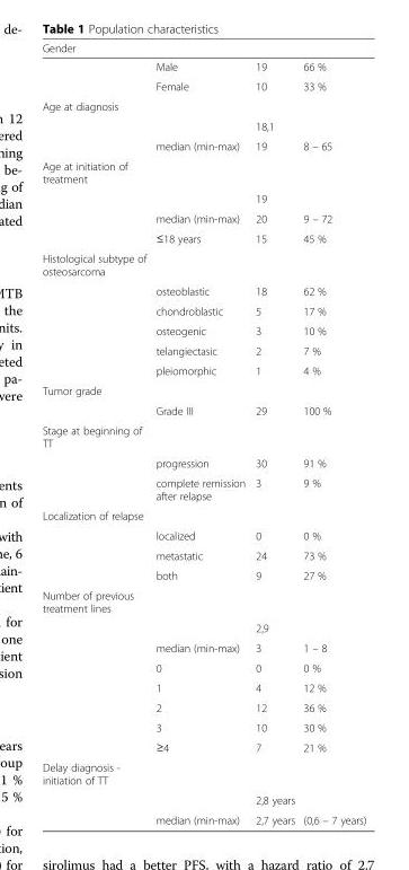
<table><thead><tr><td>Gender</td><td></td><td></td><td></td></tr></thead><tbody><tr><td></td><td>Male</td><td>19</td><td>66 %</td></tr><tr><td></td><td>Female</td><td>10</td><td>33 %</td></tr><tr><td colspan="4">Age at diagnosis</td></tr><tr><td></td><td></td><td>18,1</td><td></td></tr><tr><td></td><td>median (min-max)</td><td>19</td><td>8 – 65</td></tr><tr><td colspan="4">Age at initiation of treatment</td></tr><tr><td></td><td></td><td>19</td><td></td></tr><tr><td></td><td>median (min-max)</td><td>20</td><td>9 – 72</td></tr><tr><td></td><td>≤18 years</td><td>15</td><td>45 %</td></tr><tr><td colspan="4">Histological subtype of osteosarcoma</td></tr><tr><td></td><td>osteoblastic</td><td>18</td><td>62 %</td></tr><tr><td></td><td>chondroblastic</td><td>5</td><td>17 %</td></tr><tr><td></td><td>osteogenic</td><td>3</td><td>10 %</td></tr><tr><td></td><td>telangiectasic</td><td>2</td><td>7 %</td></tr><tr><td></td><td>pleiomorphic</td><td>1</td><td>4 %</td></tr><tr><td colspan="4">Tumor grade</td></tr><tr><td></td><td>Grade III</td><td>29</td><td>100 %</td></tr><tr><td colspan="4">Stage at beginning of TT</td></tr><tr><td></td><td>progression</td><td>30</td><td>91 %</td></tr><tr><td></td><td>complete remission after relapse</td><td>3</td><td>9 %</td></tr><tr><td colspan="4">Localization of relapse</td></tr><tr><td></td><td>localized</td><td>0</td><td>0 %</td></tr><tr><td></td><td>metastatic</td><td>24</td><td>73 %</td></tr><tr><td></td><td>both</td><td>9</td><td>27 %</td></tr><tr><td colspan="4">Number of previous treatment lines</td></tr><tr><td></td><td></td><td>2,9</td><td></td></tr><tr><td></td><td>median (min-max)</td><td>3</td><td>1 – 8</td></tr><tr><td></td><td>0</td><td>0</td><td>0 %</td></tr><tr><td></td><td>1</td><td>4</td><td>12 %</td></tr><tr><td></td><td>2</td><td>12</td><td>36 %</td></tr><tr><td></td><td>3</td><td>10</td><td>30 %</td></tr><tr><td></td><td>≥4</td><td>7</td><td>21 %</td></tr><tr><td colspan="4">Delay diagnosis - initiation of TT</td></tr><tr><td></td><td></td><td>2,8 years</td><td></td></tr><tr><td></td><td>median (min-max)</td><td>2,7 years</td><td>(0,6 – 7 years)</td></tr></tbody></table>